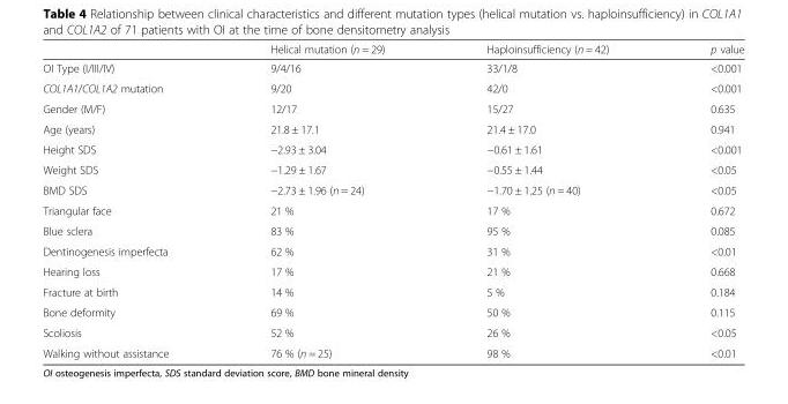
<table><thead><tr><td></td><td>Helical mutation (n = 29)</td><td>Haploinsufficiency (n = 42)</td><td>p value</td></tr></thead><tbody><tr><td>OI Type (I/III/IV)</td><td>9/4/16</td><td>33/1/8</td><td>&lt;0.001</td></tr><tr><td>COL1A1/COL1A2 mutation</td><td>9/20</td><td>42/0</td><td>&lt;0.001</td></tr><tr><td>Gender (M/F)</td><td>12/17</td><td>15/27</td><td>0.635</td></tr><tr><td>Age (years)</td><td>21.8 ± 17.1</td><td>21.4 ± 17.0</td><td>0.941</td></tr><tr><td>Height SDS</td><td>−2.93 ± 3.04</td><td>−0.61 ± 1.61</td><td>&lt;0.001</td></tr><tr><td>Weight SDS</td><td>−1.29 ± 1.67</td><td>−0.55 ± 1.44</td><td>&lt;0.05</td></tr><tr><td>BMD SDS</td><td>−2.73 ± 1.96 (n = 24)</td><td>−1.70 ± 1.25 (n = 40)</td><td>&lt;0.05</td></tr><tr><td>Triangular face</td><td>21 %</td><td>17 %</td><td>0.672</td></tr><tr><td>Blue sclera</td><td>83 %</td><td>95 %</td><td>0.085</td></tr><tr><td>Dentinogenesis imperfecta</td><td>62 %</td><td>31 %</td><td>&lt;0.01</td></tr><tr><td>Hearing loss</td><td>17 %</td><td>21 %</td><td>0.668</td></tr><tr><td>Fracture at birth</td><td>14 %</td><td>5 %</td><td>0.184</td></tr><tr><td>Bone deformity</td><td>69 %</td><td>50 %</td><td>0.115</td></tr><tr><td>Scoliosis</td><td>52 %</td><td>26 %</td><td>&lt;0.05</td></tr><tr><td>Walking without assistance</td><td>76 % (n = 25)</td><td>98 %</td><td>&lt;0.01</td></tr></tbody></table>